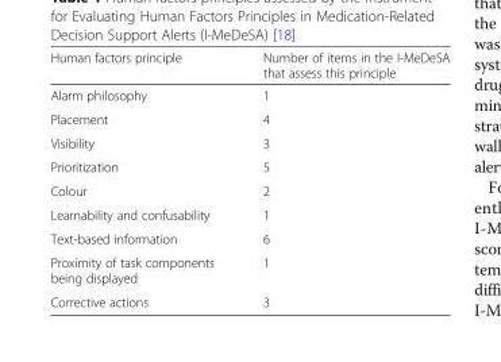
<table><thead><tr><td>Human factors principle</td><td>Number of items in the I-MeDeSA that assess this principle</td></tr></thead><tbody><tr><td>Alarm philosophy</td><td>1</td></tr><tr><td>Placement</td><td>4</td></tr><tr><td>Visibility</td><td>3</td></tr><tr><td>Prioritization</td><td>5</td></tr><tr><td>Colour</td><td>2</td></tr><tr><td>Learnability and confusability</td><td>1</td></tr><tr><td>Text-based information</td><td>6</td></tr><tr><td>Proximity of task components being displayed</td><td>1</td></tr><tr><td>Corrective actions</td><td>3</td></tr></tbody></table>